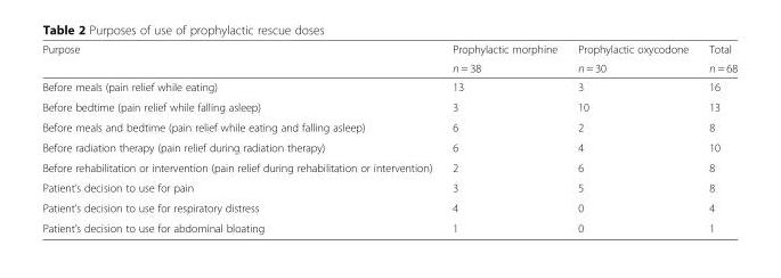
<table><thead><tr><td rowspan="2">Purpose</td><td rowspan="2">Prophylactic morphine n = 38</td><td rowspan="2">Prophylactic oxycodone n = 30</td><td rowspan="2">Total n = 68</td></tr><tr></tr></thead><tbody><tr><td>Before meals (pain relief while eating)</td><td>13</td><td>3</td><td>16</td></tr><tr><td>Before bedtime (pain relief while falling asleep)</td><td>3</td><td>10</td><td>13</td></tr><tr><td>Before meals and bedtime (pain relief while eating and falling asleep)</td><td>6</td><td>2</td><td>8</td></tr><tr><td>Before radiation therapy (pain relief during radiation therapy)</td><td>6</td><td>4</td><td>10</td></tr><tr><td>Before rehabilitation or intervention (pain relief during rehabilitation or intervention)</td><td>2</td><td>6</td><td>8</td></tr><tr><td>Patient’s decision to use for pain</td><td>3</td><td>5</td><td>8</td></tr><tr><td>Patient’s decision to use for respiratory distress</td><td>4</td><td>0</td><td>4</td></tr><tr><td>Patient’s decision to use for abdominal bloating</td><td>1</td><td>0</td><td>1</td></tr></tbody></table>